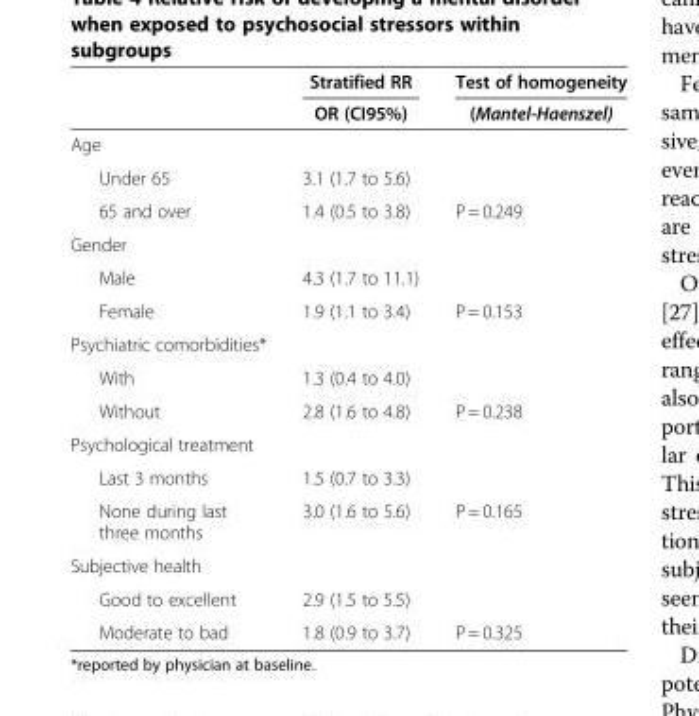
<table><thead><tr><td rowspan="2"></td><td rowspan="2">Stratified RR OR (CI95%)</td><td rowspan="2">Test of homogeneity (Mantel-Haenszel)</td></tr><tr></tr></thead><tbody><tr><td colspan="3">Age</td></tr><tr><td>Under 65</td><td>3.1 (1.7 to 5.6)</td><td></td></tr><tr><td>65 and over</td><td>1.4 (0.5 to 3.8)</td><td>P = 0.249</td></tr><tr><td colspan="3">Gender</td></tr><tr><td>Male</td><td>4.3 (1.7 to 11.1)</td><td></td></tr><tr><td>Female</td><td>1.9 (1.1 to 3.4)</td><td>P = 0.153</td></tr><tr><td colspan="3">Psychiatric comorbidities*</td></tr><tr><td>With</td><td>1.3 (0.4 to 4.0)</td><td></td></tr><tr><td>Without</td><td>2.8 (1.6 to 4.8)</td><td>P = 0.238</td></tr><tr><td colspan="3">Psychological treatment</td></tr><tr><td>Last 3 months</td><td>1.5 (0.7 to 3.3)</td><td></td></tr><tr><td>None during last three months</td><td>3.0 (1.6 to 5.6)</td><td>P = 0.165</td></tr><tr><td colspan="3">Subjective health</td></tr><tr><td>Good to excellent</td><td>2.9 (1.5 to 5.5)</td><td></td></tr><tr><td>Moderate to bad</td><td>1.8 (0.9 to 3.7)</td><td>P = 0.325</td></tr></tbody></table>